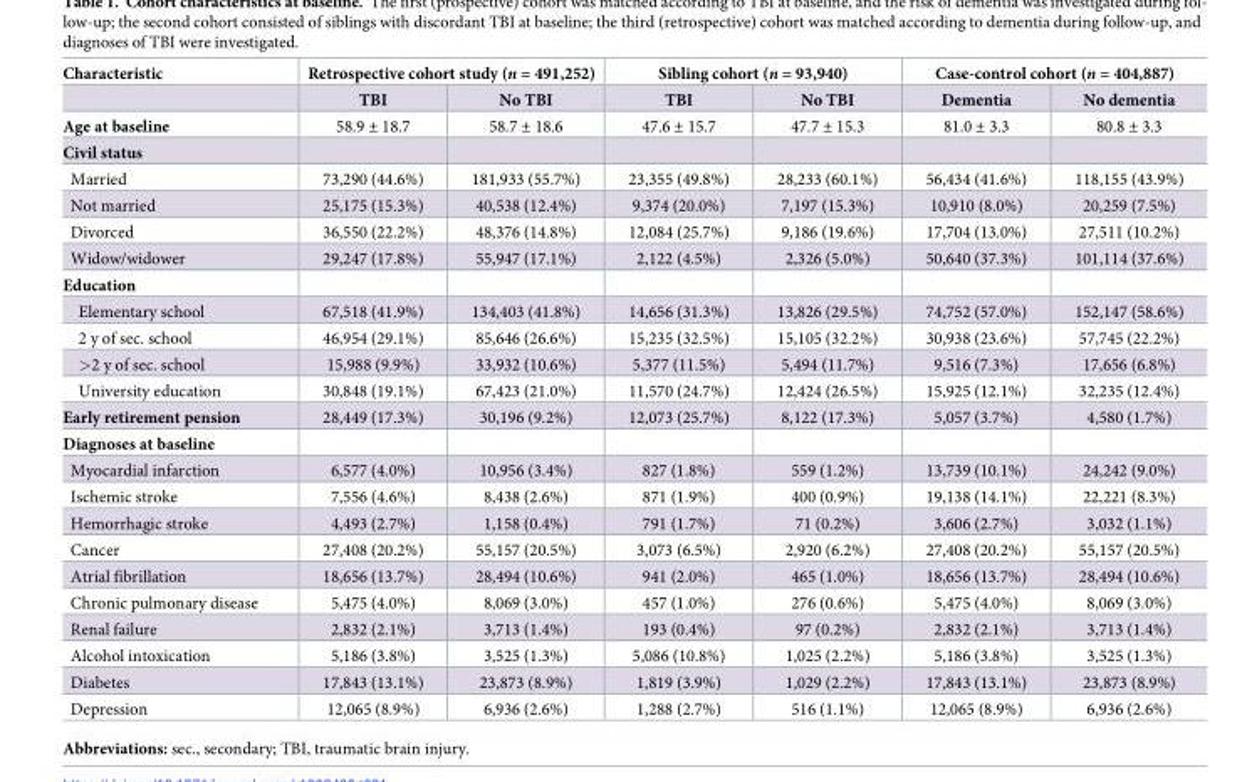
<table><thead><tr><td rowspan="2">Characteristic</td><td colspan="2">Retrospective cohort study (n = 491,252)</td><td colspan="2">Sibling cohort (n = 93,940)</td><td colspan="2">Case-control cohort (n = 404,887)</td></tr><tr><td>TBI</td><td>No TBI</td><td>TBI</td><td>No TBI</td><td>Dementia</td><td>No dementia</td></tr></thead><tbody><tr><td>Age at baseline</td><td>58.9 ± 18.7</td><td>58.7 ± 18.6</td><td>47.6 ± 15.7</td><td>47.7 ± 15.3</td><td>81.0 ± 3.3</td><td>80.8 ± 3.3</td></tr><tr><td colspan="7">Civil status</td></tr><tr><td>Married</td><td>73,290 (44.6%)</td><td>181,933 (55.7%)</td><td>23,355 (49.8%)</td><td>28,233 (60.1%)</td><td>56,434 (41.6%)</td><td>118,155 (43.9%)</td></tr><tr><td>Not married</td><td>25,175 (15.3%)</td><td>40,538 (12.4%)</td><td>9,374 (20.0%)</td><td>7,197 (15.3%)</td><td>10,910 (8.0%)</td><td>20,259 (7.5%)</td></tr><tr><td>Divorced</td><td>36,550 (22.2%)</td><td>48,376 (14.8%)</td><td>12,084 (25.7%)</td><td>9,186 (19.6%)</td><td>17,704 (13.0%)</td><td>27,511 (10.2%)</td></tr><tr><td>Widow/widower</td><td>29,247 (17.8%)</td><td>55,947 (17.1%)</td><td>2,122 (4.5%)</td><td>2,326 (5.0%)</td><td>50,640 (37.3%)</td><td>101,114 (37.6%)</td></tr><tr><td colspan="7">Education</td></tr><tr><td>Elementary school</td><td>67,518 (41.9%)</td><td>134,403 (41.8%)</td><td>14,656 (31.3%)</td><td>13,826 (29.5%)</td><td>74,752 (57.0%)</td><td>152,147 (58.6%)</td></tr><tr><td>2 y of sec. school</td><td>46,954 (29.1%)</td><td>85,646 (26.6%)</td><td>15,235 (32.5%)</td><td>15,105 (32.2%)</td><td>30,938 (23.6%)</td><td>57,745 (22.2%)</td></tr><tr><td>&gt;2 y of sec. school</td><td>15,988 (9.9%)</td><td>33,932 (10.6%)</td><td>5,377 (11.5%)</td><td>5,494 (11.7%)</td><td>9,516 (7.3%)</td><td>17,656 (6.8%)</td></tr><tr><td>University education</td><td>30,848 (19.1%)</td><td>67,423 (21.0%)</td><td>11,570 (24.7%)</td><td>12,424 (26.5%)</td><td>15,925 (12.1%)</td><td>32,235 (12.4%)</td></tr><tr><td>Early retirement pension</td><td>28,449 (17.3%)</td><td>30,196 (9.2%)</td><td>12,073 (25.7%)</td><td>8,122 (17.3%)</td><td>5,057 (3.7%)</td><td>4,580 (1.7%)</td></tr><tr><td colspan="7">Diagnoses at baseline</td></tr><tr><td>Myocardial infarction</td><td>6,577 (4.0%)</td><td>10,956 (3.4%)</td><td>827 (1.8%)</td><td>559 (1.2%)</td><td>13,739 (10.1%)</td><td>24,242 (9.0%)</td></tr><tr><td>Ischemic stroke</td><td>7,556 (4.6%)</td><td>8,438 (2.6%)</td><td>871 (1.9%)</td><td>400 (0.9%)</td><td>19,138 (14.1%)</td><td>22,221 (8.3%)</td></tr><tr><td>Hemorrhagic stroke</td><td>4,493 (2.7%)</td><td>1,158 (0.4%)</td><td>791 (1.7%)</td><td>71 (0.2%)</td><td>3,606 (2.7%)</td><td>3,032 (1.1%)</td></tr><tr><td>Cancer</td><td>27,408 (20.2%)</td><td>55,157 (20.5%)</td><td>3,073 (6.5%)</td><td>2,920 (6.2%)</td><td>27,408 (20.2%)</td><td>55,157 (20.5%)</td></tr><tr><td>Atrial fibrillation</td><td>18,656 (13.7%)</td><td>28,494 (10.6%)</td><td>941 (2.0%)</td><td>465 (1.0%)</td><td>18,656 (13.7%)</td><td>28,494 (10.6%)</td></tr><tr><td>Chronic pulmonary disease</td><td>5,475 (4.0%)</td><td>8,069 (3.0%)</td><td>457 (1.0%)</td><td>276 (0.6%)</td><td>5,475 (4.0%)</td><td>8,069 (3.0%)</td></tr><tr><td>Renal failure</td><td>2,832 (2.1%)</td><td>3,713 (1.4%)</td><td>193 (0.4%)</td><td>97 (0.2%)</td><td>2,832 (2.1%)</td><td>3,713 (1.4%)</td></tr><tr><td>Alcohol intoxication</td><td>5,186 (3.8%)</td><td>3,525 (1.3%)</td><td>5,086 (10.8%)</td><td>1,025 (2.2%)</td><td>5,186 (3.8%)</td><td>3,525 (1.3%)</td></tr><tr><td>Diabetes</td><td>17,843 (13.1%)</td><td>23,873 (8.9%)</td><td>1,819 (3.9%)</td><td>1,029 (2.2%)</td><td>17,843 (13.1%)</td><td>23,873 (8.9%)</td></tr><tr><td>Depression</td><td>12,065 (8.9%)</td><td>6,936 (2.6%)</td><td>1,288 (2.7%)</td><td>516 (1.1%)</td><td>12,065 (8.9%)</td><td>6,936 (2.6%)</td></tr></tbody></table>